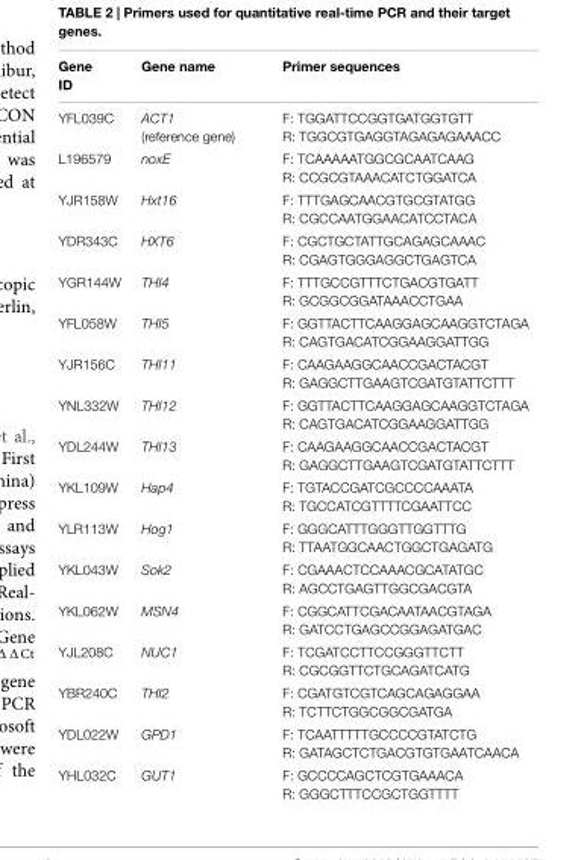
<table><thead><tr><td>Gene ID</td><td>Gene name</td><td>Primer sequences</td></tr></thead><tbody><tr><td>YFL039C</td><td>ACT1 (reference gene)</td><td>F: TGGATTCCGGTGATGGTGTT R: TGGCGTGAGGTAGAGAGAAACC</td></tr><tr><td>L196579</td><td>noxE</td><td>F: TCAAAAATGGCGCAATCAAG R: CCGCGTAAACATCTGGATCA</td></tr><tr><td>YJR158W</td><td>Hxt16</td><td>F: TTTGAGCAACGTGCGTATGG R: CGCCAATGGAACATCCTACA</td></tr><tr><td>YDR343C</td><td>HXT6</td><td>F: CGCTGCTATTGCAGAGCAAAC R: CGAGTGGGAGGCTGAGTCA</td></tr><tr><td>YGR144W</td><td>THI4</td><td>F: TTTGCCGTTTCTGACGTGATT R: GCGGCGGATAAACCTGAA</td></tr><tr><td>YFL058W</td><td>THI5</td><td>F: GGTTACTTCAAGGAGCAAGGTCTAGA R: CAGTGACATCGGAAGGATTGG</td></tr><tr><td>YJR156C</td><td>THI11</td><td>F: CAAGAAGGCAACCGACTACGT R: GAGGCTTGAAGTCGATGTATTCTTT</td></tr><tr><td>YNL332W</td><td>THI12</td><td>F: GGTTACTTCAAGGAGCAAGGTCTAGA R: CAGTGACATCGGAAGGATTGG</td></tr><tr><td>YDL244W</td><td>THI13</td><td>F: CAAGAAGGCAACCGACTACGT R: GAGGCTTGAAGTCGATGTATTCTTT</td></tr><tr><td>YKL109W</td><td>Hap4</td><td>F: TGTACCGATCGCCCCAAATA R: TGCCATCGTTTTCGAATTCC</td></tr><tr><td>YLR113W</td><td>Hog1</td><td>F: GGGCATTTGGGTTGGTTTG R: TTAATGGCAACTGGCTGAGATG</td></tr><tr><td>YKL043W</td><td>Sok2</td><td>F: CGAAACTCCAAACGCATATGC R: AGCCTGAGTTGGCGACGTA</td></tr><tr><td>YKL062W</td><td>MSN4</td><td>F: CGGCATTCGACAATAACGTAGA R: GATCCTGAGCCGGAGATGAC</td></tr><tr><td>YJL208C</td><td>NUC1</td><td>F: TCGATCCTTCCGGGTTCTT R: CGCGGTTCTGCAGATCATG</td></tr><tr><td>YBR240C</td><td>THI2</td><td>F: CGATGTCGTCAGCAGAGGAA R: TCTTCTGGCGGCGATGA</td></tr><tr><td>YDL022W</td><td>GPD1</td><td>F: TCAATTTTTGCCCCGTATCTG R: GATAGCTCTGACGTGTGAATCAACA</td></tr><tr><td>YHL032C</td><td>GUT1</td><td>F: GCCCCAGCTCGTGAAACA R: GGGCTTTCCGCTGGTTTT</td></tr></tbody></table>